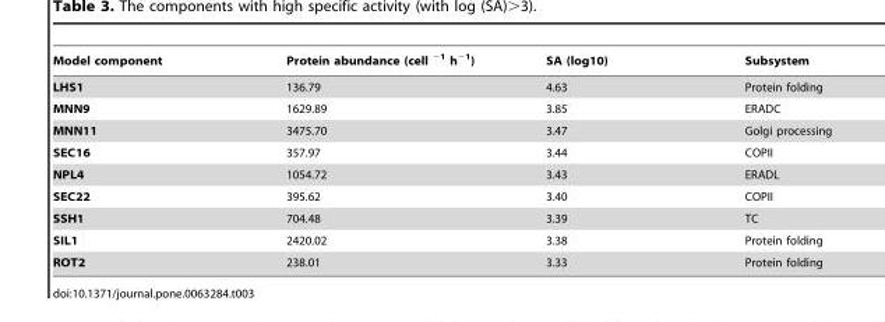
<table><thead><tr><td>Model component</td><td>Protein abundance (cell <sup>−1</sup> h<sup>−1</sup>)</td><td>SA (log10)</td><td>Subsystem</td></tr></thead><tbody><tr><td>LHS1</td><td>136.79</td><td>4.63</td><td>Protein folding</td></tr><tr><td>MNN9</td><td>1629.89</td><td>3.85</td><td>ERADC</td></tr><tr><td>MNN11</td><td>3475.70</td><td>3.47</td><td>Golgi processing</td></tr><tr><td>SEC16</td><td>357.97</td><td>3.44</td><td>COPII</td></tr><tr><td>NPL4</td><td>1054.72</td><td>3.43</td><td>ERADL</td></tr><tr><td>SEC22</td><td>395.62</td><td>3.40</td><td>COPII</td></tr><tr><td>SSH1</td><td>704.48</td><td>3.39</td><td>TC</td></tr><tr><td>SIL1</td><td>2420.02</td><td>3.38</td><td>Protein folding</td></tr><tr><td>ROT2</td><td>238.01</td><td>3.33</td><td>Protein folding</td></tr></tbody></table>